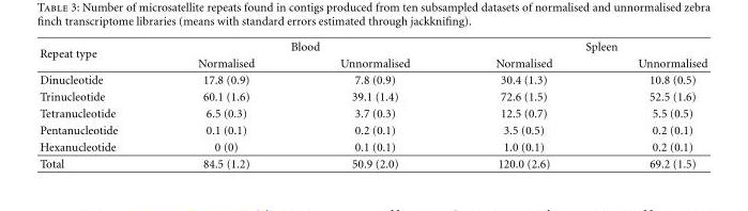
<table><thead><tr><td rowspan="2">Repeat type</td><td colspan="2">Blood</td><td colspan="2">Spleen</td></tr><tr><td>Normalised</td><td>Unnormalised</td><td>Normalised</td><td>Unnormalised</td></tr></thead><tbody><tr><td>Dinucleotide</td><td>17.8 (0.9)</td><td>7.8 (0.9)</td><td>30.4 (1.3)</td><td>10.8 (0.5)</td></tr><tr><td>Trinucleotide</td><td>60.1 (1.6)</td><td>39.1 (1.4)</td><td>72.6 (1.5)</td><td>52.5 (1.6)</td></tr><tr><td>Tetranucleotide</td><td>6.5 (0.3)</td><td>3.7 (0.3)</td><td>12.5 (0.7)</td><td>5.5 (0.5)</td></tr><tr><td>Pentanucleotide</td><td>0.1 (0.1)</td><td>0.2 (0.1)</td><td>3.5 (0.5)</td><td>0.2 (0.1)</td></tr><tr><td>Hexanucleotide</td><td>0 (0)</td><td>0.1 (0.1)</td><td>1.0 (0.1)</td><td>0.2 (0.1)</td></tr><tr><td>Total</td><td>84.5 (1.2)</td><td>50.9 (2.0)</td><td>120.0 (2.6)</td><td>69.2 (1.5)</td></tr></tbody></table>